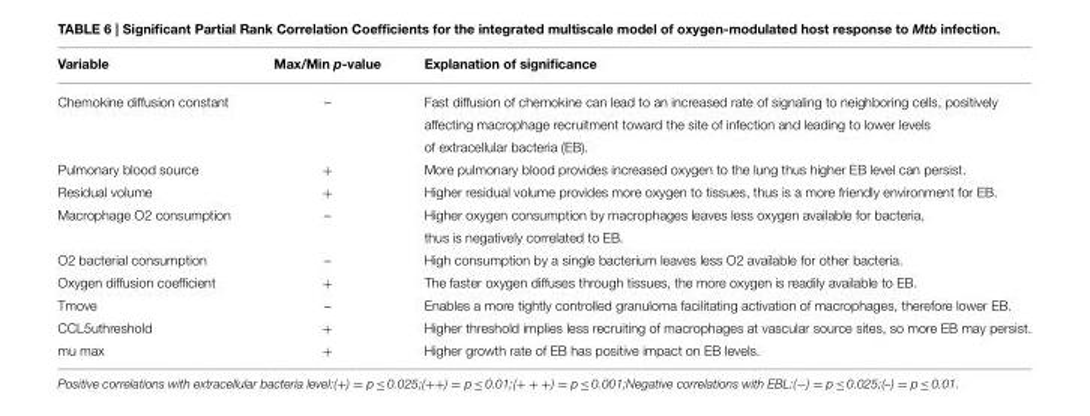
<table><thead><tr><td>Variable</td><td>Max/Min p-value</td><td>Explanation of significance</td></tr></thead><tbody><tr><td rowspan="3">Chemokine diffusion constant</td><td>–</td><td>Fast diffusion of chemokine can lead to an increased rate of signaling to neighboring cells, positively</td></tr><tr><td></td><td>affecting macrophage recruitment toward the site of infection and leading to lower levels</td></tr><tr><td></td><td>of extracellular bacteria (EB).</td></tr><tr><td>Pulmonary blood source</td><td>+</td><td>More pulmonary blood provides increased oxygen to the lung thus higher EB level can persist.</td></tr><tr><td>Residual volume</td><td>+</td><td>Higher residual volume provides more oxygen to tissues, thus is a more friendly environment for EB.</td></tr><tr><td rowspan="2">Macrophage O2 consumption</td><td>–</td><td>Higher oxygen consumption by macrophages leaves less oxygen available for bacteria,</td></tr><tr><td></td><td>thus is negatively correlated to EB.</td></tr><tr><td>O2 bacterial consumption</td><td>–</td><td>High consumption by a single bacterium leaves less O2 available for other bacteria.</td></tr><tr><td>Oxygen diffusion coefficient</td><td>+</td><td>The faster oxygen diffuses through tissues, the more oxygen is readily available to EB.</td></tr><tr><td>Tmove</td><td>–</td><td>Enables a more tightly controlled granuloma facilitating activation of macrophages, therefore lower EB.</td></tr><tr><td>CCL5uthreshold</td><td>+</td><td>Higher threshold implies less recruiting of macrophages at vascular source sites, so more EB may persist.</td></tr><tr><td>mu max</td><td>+</td><td>Higher growth rate of EB has positive impact on EB levels.</td></tr></tbody></table>